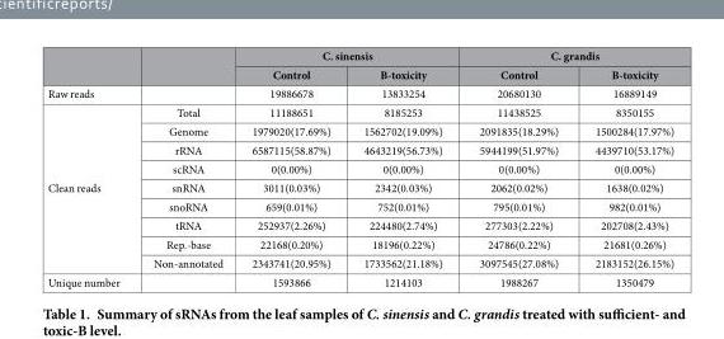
<table><thead><tr><td rowspan="2"></td><td rowspan="2"></td><td colspan="2">C. sinensis</td><td colspan="2">C. grandis</td></tr><tr><td>Control</td><td>B-toxicity</td><td>Control</td><td>B-toxicity</td></tr></thead><tbody><tr><td>Raw reads</td><td></td><td>19886678</td><td>13833254</td><td>20680130</td><td>16889149</td></tr><tr><td rowspan="9">Clean reads</td><td>Total</td><td>11188651</td><td>8185253</td><td>11438525</td><td>8350155</td></tr><tr><td>Genome</td><td>1979020(17.69%)</td><td>1562702(19.09%)</td><td>2091835(18.29%)</td><td>1500284(17.97%)</td></tr><tr><td>rRNA</td><td>6587115(58.87%)</td><td>4643219(56.73%)</td><td>5944199(51.97%)</td><td>4439710(53.17%)</td></tr><tr><td>scRNA</td><td>0(0.00%)</td><td>0(0.00%)</td><td>0(0.00%)</td><td>0(0.00%)</td></tr><tr><td>snRNA</td><td>3011(0.03%)</td><td>2342(0.03%)</td><td>2062(0.02%)</td><td>1638(0.02%)</td></tr><tr><td>snoRNA</td><td>659(0.01%)</td><td>752(0.01%)</td><td>795(0.01%)</td><td>982(0.01%)</td></tr><tr><td>tRNA</td><td>252937(2.26%)</td><td>224480(2.74%)</td><td>277303(2.22%)</td><td>202708(2.43%)</td></tr><tr><td>Rep.-base</td><td>22168(0.20%)</td><td>18196(0.22%)</td><td>24786(0.22%)</td><td>21681(0.26%)</td></tr><tr><td>Non-annotated</td><td>2343741(20.95%)</td><td>1733562(21.18%)</td><td>3097545(27.08%)</td><td>2183152(26.15%)</td></tr><tr><td>Unique number</td><td></td><td>1593866</td><td>1214103</td><td>1988267</td><td>1350479</td></tr></tbody></table>